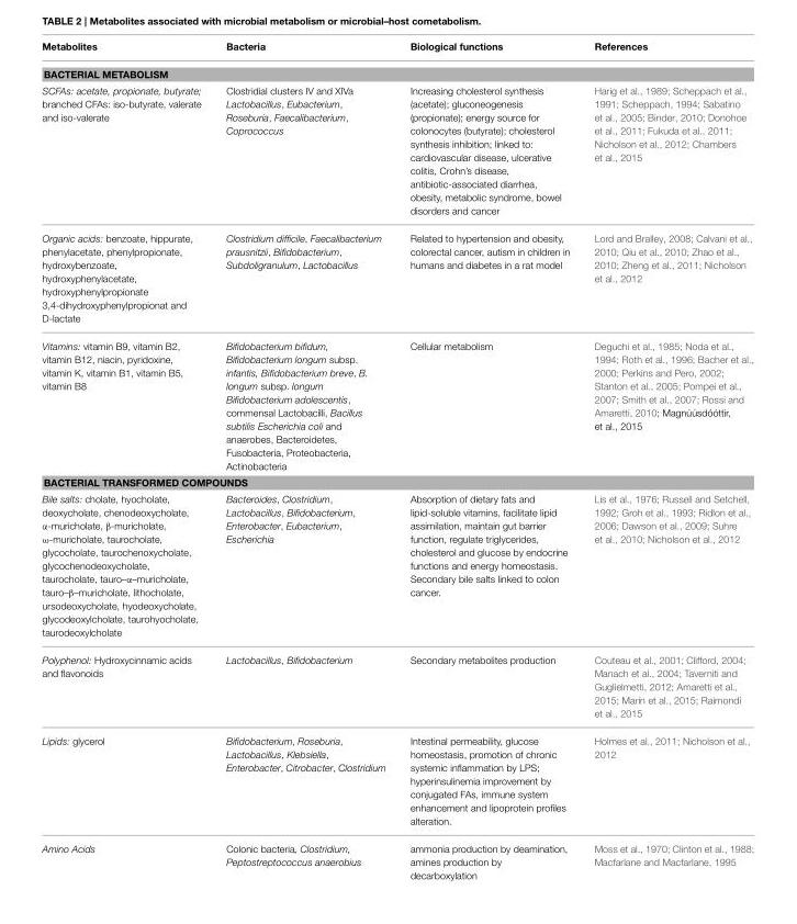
<table><thead><tr><td>Metabolites</td><td>Bacteria</td><td>Biological functions</td><td>References</td></tr></thead><tbody><tr><td colspan="4">BACTERIAL METABOLISM</td></tr><tr><td>SCFAs: acetate, propionate, butyrate; branched CFAs: iso-butyrate, valerate and iso-valerate</td><td>Clostridial clusters IV and XIVa Lactobacillus, Eubacterium, Roseburia, Faecalibacterium, Coprococcus</td><td>Increasing cholesterol synthesis (acetate); gluconeogenesis (propionate); energy source for colonocytes (butyrate); cholesterol synthesis inhibition; linked to: cardiovascular disease, ulcerative colitis, Crohn’s disease, antibiotic-associated diarrhea, obesity, metabolic syndrome, bowel disorders and cancer</td><td>Harig et al., 1989; Scheppach et al., 1991; Scheppach, 1994; Sabatino et al., 2005; Binder, 2010; Donohoe et al., 2011; Fukuda et al., 2011; Nicholson et al., 2012; Chambers et al., 2015</td></tr><tr><td>Organic acids: benzoate, hippurate, phenylacetate, phenylpropionate, hydroxybenzoate, hydroxyphenylacetate, hydroxyphenylpropionate 3,4-dihydroxyphenylpropionat and D-lactate</td><td>Clostridium difficile, Faecalibacterium prausnitzii, Bifidobacterium, Subdoligranulum, Lactobacillus</td><td>Related to hypertension and obesity, colorectal cancer, autism in children in humans and diabetes in a rat model</td><td>Lord and Bralley, 2008; Calvani et al., 2010; Qiu et al., 2010; Zhao et al., 2010; Zheng et al., 2011; Nicholson et al., 2012</td></tr><tr><td>Vitamins: vitamin B9, vitamin B2, vitamin B12, niacin, pyridoxine, vitamin K, vitamin B1, vitamin B5, vitamin B8</td><td>Bifidobacterium bifidum, Bifidobacterium longum subsp. infantis, Bifidobacterium breve, B. longum subsp. longum Bifidobacterium adolescentis, commensal Lactobacilli, Bacillus subtilis Escherichia coli and anaerobes, Bacteroidetes, Fusobacteria, Proteobacteria, Actinobacteria</td><td>Cellular metabolism</td><td>Deguchi et al., 1985; Noda et al., 1994; Roth et al., 1996; Bacher et al., 2000; Perkins and Pero, 2002; Stanton et al., 2005; Pompei et al., 2007; Smith et al., 2007; Rossi and Amaretti, 2010; Magnúúsdóóttir, et al., 2015</td></tr><tr><td colspan="4">BACTERIAL TRANSFORMED COMPOUNDS</td></tr><tr><td>Bile salts: cholate, hyocholate, deoxycholate, chenodeoxycholate, α-muricholate, β-muricholate, ω-muricholate, taurocholate, glycocholate, taurochenoxycholate, glycochenodeoxycholate, taurocholate, tauro–α–muricholate, tauro–β–muricholate, lithocholate, ursodeoxycholate, hyodeoxycholate, glycodeoxylcholate, taurohyocholate, taurodeoxylcholate</td><td>Bacteroides, Clostridium, Lactobacillus, Bifidobacterium, Enterobacter, Eubacterium, Escherichia</td><td>Absorption of dietary fats and lipid-soluble vitamins, facilitate lipid assimilation, maintain gut barrier function, regulate triglycerides, cholesterol and glucose by endocrine functions and energy homeostasis. Secondary bile salts linked to colon cancer.</td><td>Lis et al., 1976; Russell and Setchell, 1992; Groh et al., 1993; Ridlon et al., 2006; Dawson et al., 2009; Suhre et al., 2010; Nicholson et al., 2012</td></tr><tr><td>Polyphenol: Hydroxycinnamic acids and flavonoids</td><td>Lactobacillus, Bifidobacterium</td><td>Secondary metabolites production</td><td>Couteau et al., 2001; Clifford, 2004; Manach et al., 2004; Taverniti and Guglielmetti, 2012; Amaretti et al., 2015; Marín et al., 2015; Raimondi et al., 2015</td></tr><tr><td>Lipids: glycerol</td><td>Bifidobacterium, Roseburia, Lactobacillus, Klebsiella, Enterobacter, Citrobacter, Clostridium</td><td>Intestinal permeability, glucose homeostasis, promotion of chronic systemic inflammation by LPS; hyperinsulinemia improvement by conjugated FAs, immune system enhancement and lipoprotein profiles alteration.</td><td>Holmes et al., 2011; Nicholson et al., 2012</td></tr><tr><td>Amino Acids</td><td>Colonic bacteria, Clostridium, Peptostreptococcus anaerobius</td><td>ammonia production by deamination, amines production by decarboxylation</td><td>Moss et al., 1970; Clinton et al., 1988; Macfarlane and Macfarlane, 1995</td></tr></tbody></table>